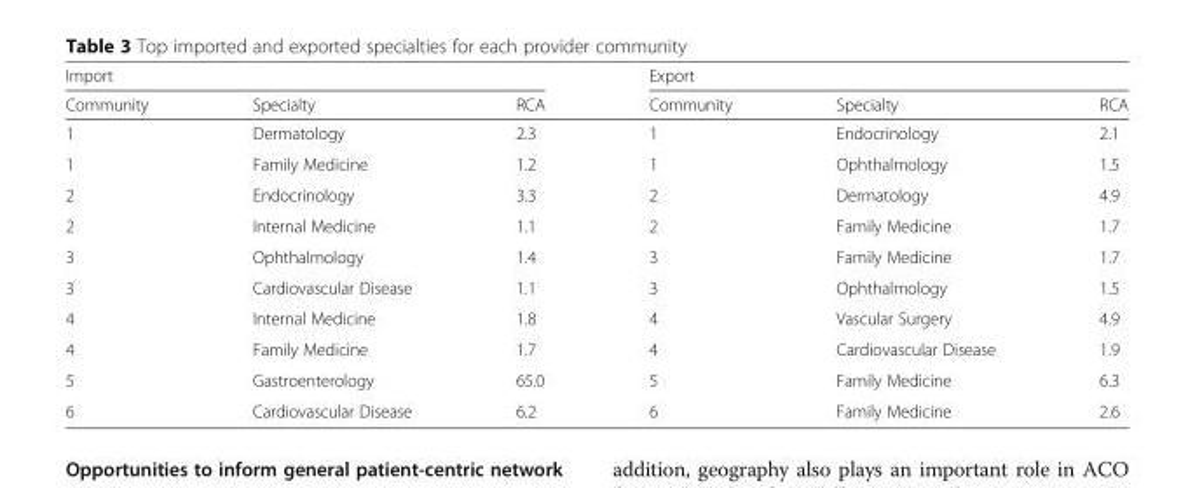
<table><thead><tr><td colspan="3">Import</td><td colspan="3">Export</td></tr><tr><td>Community</td><td>Specialty</td><td>RCA</td><td>Community</td><td>Specialty</td><td>RCA</td></tr></thead><tbody><tr><td>1</td><td>Dermatology</td><td>2.3</td><td>1</td><td>Endocrinology</td><td>2.1</td></tr><tr><td>1</td><td>Family Medicine</td><td>1.2</td><td>1</td><td>Ophthalmology</td><td>1.5</td></tr><tr><td>2</td><td>Endocrinology</td><td>3.3</td><td>2</td><td>Dermatology</td><td>4.9</td></tr><tr><td>2</td><td>Internal Medicine</td><td>1.1</td><td>2</td><td>Family Medicine</td><td>1.7</td></tr><tr><td>3</td><td>Ophthalmology</td><td>1.4</td><td>3</td><td>Family Medicine</td><td>1.7</td></tr><tr><td>3</td><td>Cardiovascular Disease</td><td>1.1</td><td>3</td><td>Ophthalmology</td><td>1.5</td></tr><tr><td>4</td><td>Internal Medicine</td><td>1.8</td><td>4</td><td>Vascular Surgery</td><td>4.9</td></tr><tr><td>4</td><td>Family Medicine</td><td>1.7</td><td>4</td><td>Cardiovascular Disease</td><td>1.9</td></tr><tr><td>5</td><td>Gastroenterology</td><td>65.0</td><td>5</td><td>Family Medicine</td><td>6.3</td></tr><tr><td>6</td><td>Cardiovascular Disease</td><td>6.2</td><td>6</td><td>Family Medicine</td><td>2.6</td></tr></tbody></table>